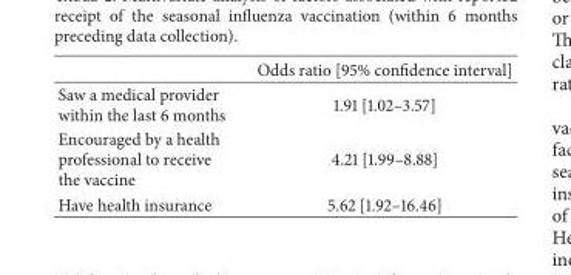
<table><thead><tr><td></td><td>Odds ratio [95% confidence interval]</td></tr></thead><tbody><tr><td>Saw a medical provider within the last 6 months</td><td>1.91 [1.02–3.57]</td></tr><tr><td>Encouraged by a health professional to receive the vaccine</td><td>4.21 [1.99–8.88]</td></tr><tr><td>Have health insurance</td><td>5.62 [1.92–16.46]</td></tr></tbody></table>